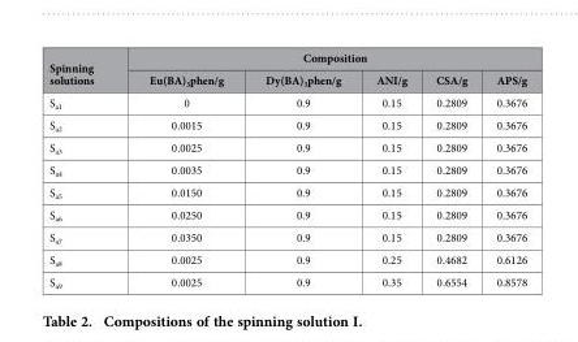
<table><thead><tr><td rowspan="2">Spinning solutions</td><td colspan="5">Composition</td></tr><tr><td>Eu(BA)<sub>3</sub>phen/g</td><td>Dy(BA)<sub>3</sub>phen/g</td><td>ANI/g</td><td>CSA/g</td><td>APS/g</td></tr></thead><tbody><tr><td>S<sub>a1</sub></td><td>0</td><td>0.9</td><td>0.15</td><td>0.2809</td><td>0.3676</td></tr><tr><td>S<sub>a2</sub></td><td>0.0015</td><td>0.9</td><td>0.15</td><td>0.2809</td><td>0.3676</td></tr><tr><td>S<sub>a3</sub></td><td>0.0025</td><td>0.9</td><td>0.15</td><td>0.2809</td><td>0.3676</td></tr><tr><td>S<sub>a4</sub></td><td>0.0035</td><td>0.9</td><td>0.15</td><td>0.2809</td><td>0.3676</td></tr><tr><td>S<sub>a5</sub></td><td>0.0150</td><td>0.9</td><td>0.15</td><td>0.2809</td><td>0.3676</td></tr><tr><td>S<sub>a6</sub></td><td>0.0250</td><td>0.9</td><td>0.15</td><td>0.2809</td><td>0.3676</td></tr><tr><td>S<sub>a7</sub></td><td>0.0350</td><td>0.9</td><td>0.15</td><td>0.2809</td><td>0.3676</td></tr><tr><td>S<sub>a8</sub></td><td>0.0025</td><td>0.9</td><td>0.25</td><td>0.4682</td><td>0.6126</td></tr><tr><td>S<sub>a9</sub></td><td>0.0025</td><td>0.9</td><td>0.35</td><td>0.6554</td><td>0.8578</td></tr></tbody></table>